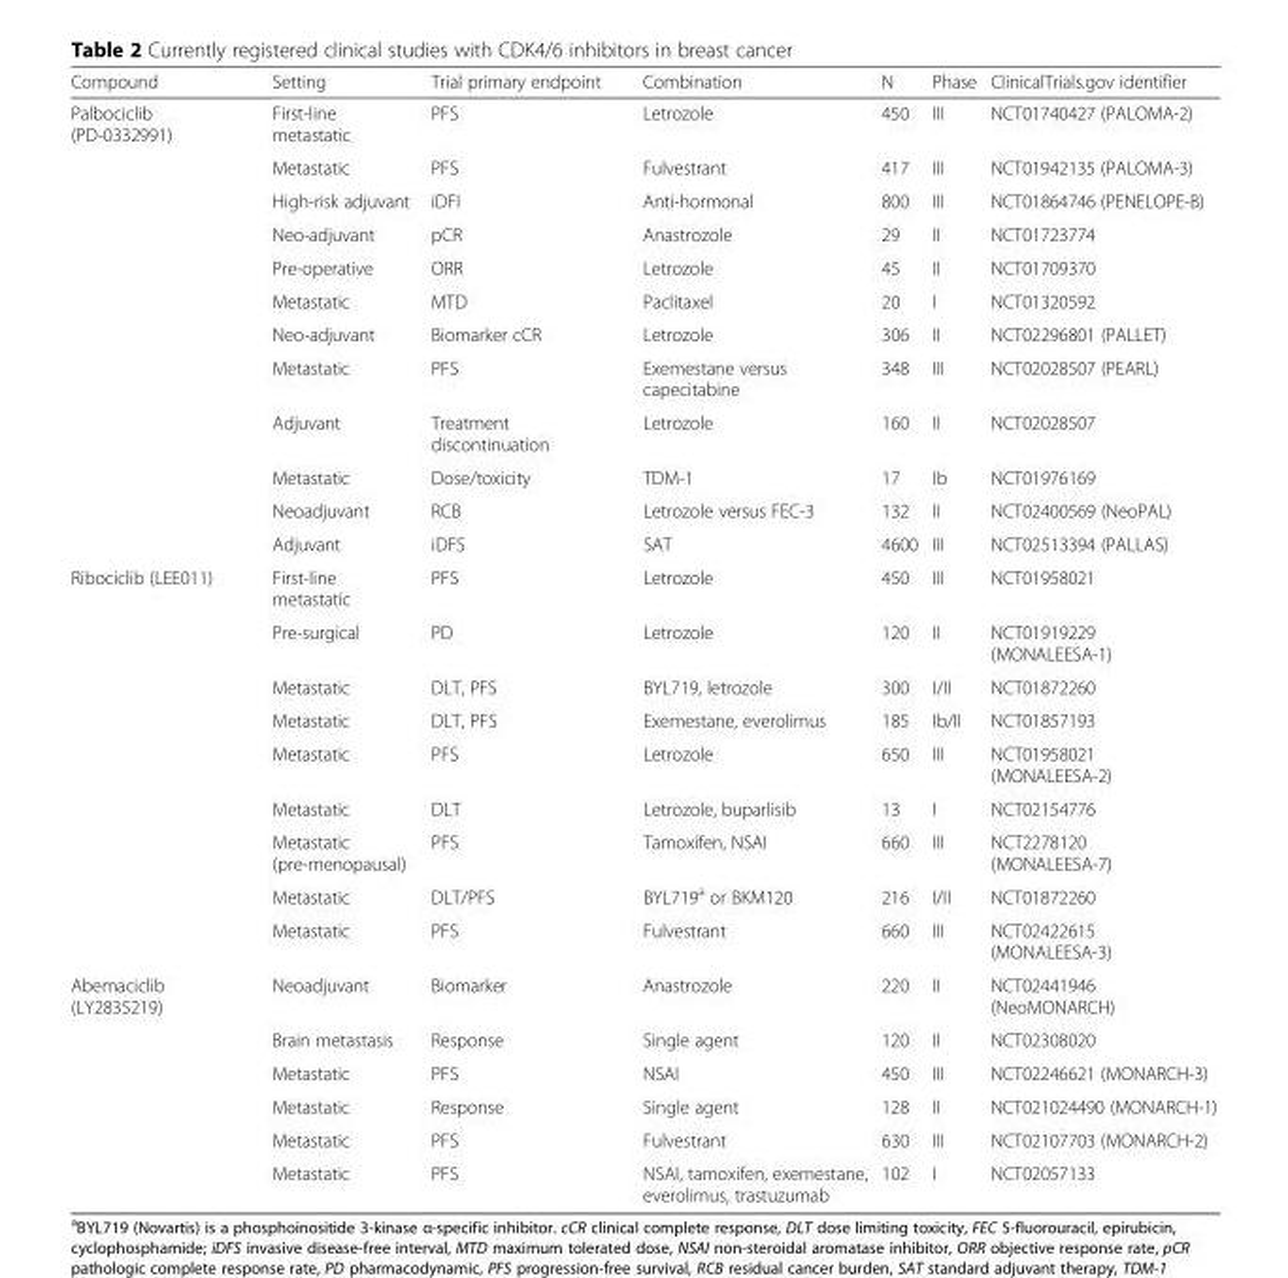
<table><thead><tr><td>Compound</td><td>Setting</td><td>Trial primary endpoint</td><td>Combination</td><td>N</td><td>Phase</td><td>ClinicalTrials.gov identifier</td></tr></thead><tbody><tr><td rowspan="12">Palbociclib (PD-0332991)</td><td>First-line metastatic</td><td>PFS</td><td>Letrozole</td><td>450</td><td>III</td><td>NCT01740427 (PALOMA-2)</td></tr><tr><td>Metastatic</td><td>PFS</td><td>Fulvestrant</td><td>417</td><td>III</td><td>NCT01942135 (PALOMA-3)</td></tr><tr><td>High-risk adjuvant</td><td>iDFI</td><td>Anti-hormonal</td><td>800</td><td>III</td><td>NCT01864746 (PENELOPE-B)</td></tr><tr><td>Neo-adjuvant</td><td>pCR</td><td>Anastrozole</td><td>29</td><td>II</td><td>NCT01723774</td></tr><tr><td>Pre-operative</td><td>ORR</td><td>Letrozole</td><td>45</td><td>II</td><td>NCT01709370</td></tr><tr><td>Metastatic</td><td>MTD</td><td>Paclitaxel</td><td>20</td><td>I</td><td>NCT01320592</td></tr><tr><td>Neo-adjuvant</td><td>Biomarker cCR</td><td>Letrozole</td><td>306</td><td>II</td><td>NCT02296801 (PALLET)</td></tr><tr><td>Metastatic</td><td>PFS</td><td>Exemestane versus capecitabine</td><td>348</td><td>III</td><td>NCT02028507 (PEARL)</td></tr><tr><td>Adjuvant</td><td>Treatment discontinuation</td><td>Letrozole</td><td>160</td><td>II</td><td>NCT02028507</td></tr><tr><td>Metastatic</td><td>Dose/toxicity</td><td>TDM-1</td><td>17</td><td>Ib</td><td>NCT01976169</td></tr><tr><td>Neoadjuvant</td><td>RCB</td><td>Letrozole versus FEC-3</td><td>132</td><td>II</td><td>NCT02400569 (NeoPAL)</td></tr><tr><td>Adjuvant</td><td>iDFS</td><td>SAT</td><td>4600</td><td>III</td><td>NCT02513394 (PALLAS)</td></tr><tr><td rowspan="9">Ribociclib (LEE011)</td><td>First-line metastatic</td><td>PFS</td><td>Letrozole</td><td>450</td><td>III</td><td>NCT01958021</td></tr><tr><td>Pre-surgical</td><td>PD</td><td>Letrozole</td><td>120</td><td>II</td><td>NCT01919229 (MONALEESA-1)</td></tr><tr><td>Metastatic</td><td>DLT, PFS</td><td>BYL719, letrozole</td><td>300</td><td>I/II</td><td>NCT01872260</td></tr><tr><td>Metastatic</td><td>DLT, PFS</td><td>Exemestane, everolimus</td><td>185</td><td>Ib/II</td><td>NCT01857193</td></tr><tr><td>Metastatic</td><td>PFS</td><td>Letrozole</td><td>650</td><td>III</td><td>NCT01958021 (MONALEESA-2)</td></tr><tr><td>Metastatic</td><td>DLT</td><td>Letrozole, buparlisib</td><td>13</td><td>I</td><td>NCT02154776</td></tr><tr><td>Metastatic (pre-menopausal)</td><td>PFS</td><td>Tamoxifen, NSAI</td><td>660</td><td>III</td><td>NCT2278120 (MONALEESA-7)</td></tr><tr><td>Metastatic</td><td>DLT/PFS</td><td>BYL719<sup>a</sup> or BKM120</td><td>216</td><td>I/II</td><td>NCT01872260</td></tr><tr><td>Metastatic</td><td>PFS</td><td>Fulvestrant</td><td>660</td><td>III</td><td>NCT02422615 (MONALEESA-3)</td></tr><tr><td rowspan="6">Abemaciclib (LY2835219)</td><td>Neoadjuvant</td><td>Biomarker</td><td>Anastrozole</td><td>220</td><td>II</td><td>NCT02441946 (NeoMONARCH)</td></tr><tr><td>Brain metastasis</td><td>Response</td><td>Single agent</td><td>120</td><td>II</td><td>NCT02308020</td></tr><tr><td>Metastatic</td><td>PFS</td><td>NSAI</td><td>450</td><td>III</td><td>NCT02246621 (MONARCH-3)</td></tr><tr><td>Metastatic</td><td>Response</td><td>Single agent</td><td>128</td><td>II</td><td>NCT021024490 (MONARCH-1)</td></tr><tr><td>Metastatic</td><td>PFS</td><td>Fulvestrant</td><td>630</td><td>III</td><td>NCT02107703 (MONARCH-2)</td></tr><tr><td>Metastatic</td><td>PFS</td><td>NSAI, tamoxifen, exemestane, everolimus, trastuzumab</td><td>102</td><td>I</td><td>NCT02057133</td></tr></tbody></table>